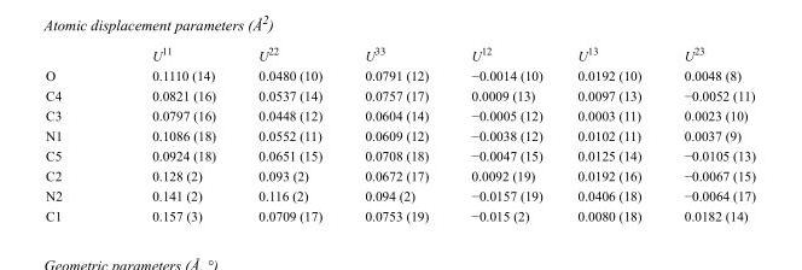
<table><thead><tr><td></td><td>U<sup>11</sup></td><td>U<sup>22</sup></td><td>U<sup>33</sup></td><td>U<sup>12</sup></td><td>U<sup>13</sup></td><td>U<sup>23</sup></td></tr></thead><tbody><tr><td>O</td><td>0.1110 (14)</td><td>0.0480 (10)</td><td>0.0791 (12)</td><td>−0.0014 (10)</td><td>0.0192 (10)</td><td>0.0048 (8)</td></tr><tr><td>C4</td><td>0.0821 (16)</td><td>0.0537 (14)</td><td>0.0757 (17)</td><td>0.0009 (13)</td><td>0.0097 (13)</td><td>−0.0052 (11)</td></tr><tr><td>C3</td><td>0.0797 (16)</td><td>0.0448 (12)</td><td>0.0604 (14)</td><td>−0.0005 (12)</td><td>0.0003 (11)</td><td>0.0023 (10)</td></tr><tr><td>N1</td><td>0.1086 (18)</td><td>0.0552 (11)</td><td>0.0609 (12)</td><td>−0.0038 (12)</td><td>0.0102 (11)</td><td>0.0037 (9)</td></tr><tr><td>C5</td><td>0.0924 (18)</td><td>0.0651 (15)</td><td>0.0708 (18)</td><td>−0.0047 (15)</td><td>0.0125 (14)</td><td>−0.0105 (13)</td></tr><tr><td>C2</td><td>0.128 (2)</td><td>0.093 (2)</td><td>0.0672 (17)</td><td>0.0092 (19)</td><td>0.0192 (16)</td><td>−0.0067 (15)</td></tr><tr><td>N2</td><td>0.141 (2)</td><td>0.116 (2)</td><td>0.094 (2)</td><td>−0.0157 (19)</td><td>0.0406 (18)</td><td>−0.0064 (17)</td></tr><tr><td>C1</td><td>0.157 (3)</td><td>0.0709 (17)</td><td>0.0753 (19)</td><td>−0.015 (2)</td><td>0.0080 (18)</td><td>0.0182 (14)</td></tr></tbody></table>